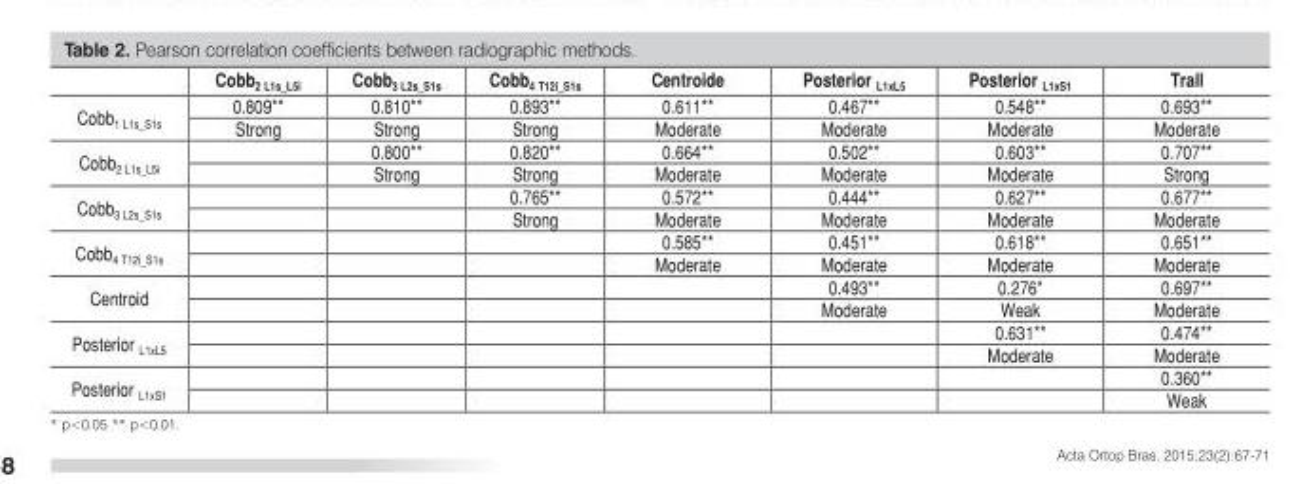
<table><thead><tr><td></td><td>Cobb<sub>2 L1s_L5i</sub></td><td>Cobb<sub>3 L2s_S1s</sub></td><td>Cobb<sub>4 T12i_S1s</sub></td><td>Centroide</td><td>Posterior <sub>L1xL5</sub></td><td>Posterior <sub>L1xS1</sub></td><td>Trall</td></tr></thead><tbody><tr><td rowspan="2">Cobb<sub>1 L1s_S1s</sub></td><td>0.809**</td><td>0.810**</td><td>0.893**</td><td>0.611**</td><td>0.467**</td><td>0.548**</td><td>0.693**</td></tr><tr><td>Strong</td><td>Strong</td><td>Strong</td><td>Moderate</td><td>Moderate</td><td>Moderate</td><td>Moderate</td></tr><tr><td rowspan="2">Cobb<sub>2 L1s_L5i</sub></td><td></td><td>0.800**</td><td>0.820**</td><td>0.664**</td><td>0.502**</td><td>0.603**</td><td>0.707**</td></tr><tr><td></td><td>Strong</td><td>Strong</td><td>Moderate</td><td>Moderate</td><td>Moderate</td><td>Strong</td></tr><tr><td rowspan="2">Cobb<sub>3 L2s_S1s</sub></td><td></td><td></td><td>0.765**</td><td>0.572**</td><td>0.444**</td><td>0.627**</td><td>0.677**</td></tr><tr><td></td><td></td><td>Strong</td><td>Moderate</td><td>Moderate</td><td>Moderate</td><td>Moderate</td></tr><tr><td rowspan="2">Cobb<sub>4 T12i_S1s</sub></td><td></td><td></td><td></td><td>0.585**</td><td>0.451**</td><td>0.618**</td><td>0.651**</td></tr><tr><td></td><td></td><td></td><td>Moderate</td><td>Moderate</td><td>Moderate</td><td>Moderate</td></tr><tr><td rowspan="2">Centroid</td><td></td><td></td><td></td><td></td><td>0.493**</td><td>0.276*</td><td>0.697**</td></tr><tr><td></td><td></td><td></td><td></td><td>Moderate</td><td>Weak</td><td>Moderate</td></tr><tr><td rowspan="2">Posterior <sub>L1xL5</sub></td><td></td><td></td><td></td><td></td><td></td><td>0.631**</td><td>0.474**</td></tr><tr><td></td><td></td><td></td><td></td><td></td><td>Moderate</td><td>Moderate</td></tr><tr><td rowspan="2">Posterior <sub>L1xS1</sub></td><td></td><td></td><td></td><td></td><td></td><td></td><td>0.360**</td></tr><tr><td></td><td></td><td></td><td></td><td></td><td></td><td>Weak</td></tr></tbody></table>